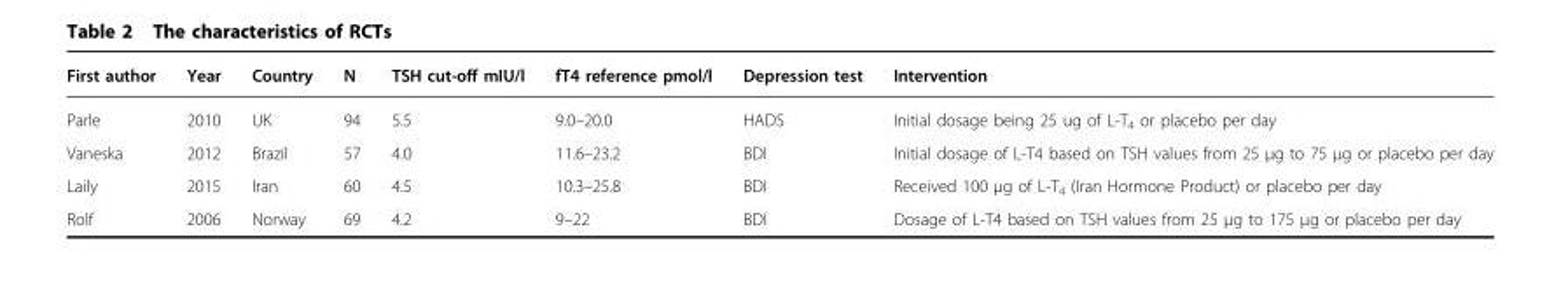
<table><thead><tr><td>First author</td><td>Year</td><td>Country</td><td>N</td><td>TSH cut-off mIU/l</td><td>fT4 reference pmol/l</td><td>Depression test</td><td>Intervention</td></tr></thead><tbody><tr><td>Parle</td><td>2010</td><td>UK</td><td>94</td><td>5.5</td><td>9.0–20.0</td><td>HADS</td><td>Initial dosage being 25 ug of L-T<sub>4</sub> or placebo per day</td></tr><tr><td>Vaneska</td><td>2012</td><td>Brazil</td><td>57</td><td>4.0</td><td>11.6–23.2</td><td>BDI</td><td>Initial dosage of L-T4 based on TSH values from 25 µg to 75 µg or placebo per day</td></tr><tr><td>Laily</td><td>2015</td><td>Iran</td><td>60</td><td>4.5</td><td>10.3–25.8</td><td>BDI</td><td>Received 100 µg of L-T<sub>4</sub> (Iran Hormone Product) or placebo per day</td></tr><tr><td>Rolf</td><td>2006</td><td>Norway</td><td>69</td><td>4.2</td><td>9–22</td><td>BDI</td><td>Dosage of L-T4 based on TSH values from 25 µg to 175 µg or placebo per day</td></tr></tbody></table>